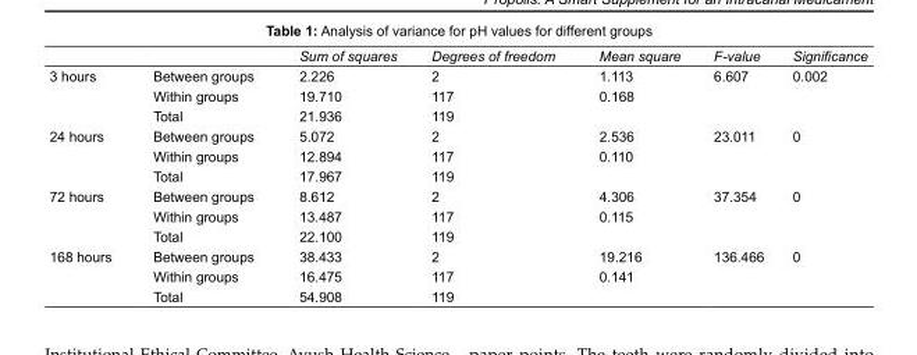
<table><thead><tr><td></td><td></td><td>Sum of squares</td><td>Degrees of freedom</td><td>Mean square</td><td>F-value</td><td>Significance</td></tr></thead><tbody><tr><td rowspan="3">3 hours</td><td>Between groups</td><td>2.226</td><td>2</td><td>1.113</td><td>6.607</td><td>0.002</td></tr><tr><td>Within groups</td><td>19.710</td><td>117</td><td>0.168</td><td></td><td></td></tr><tr><td>Total</td><td>21.936</td><td>119</td><td></td><td></td><td></td></tr><tr><td rowspan="3">24 hours</td><td>Between groups</td><td>5.072</td><td>2</td><td>2.536</td><td>23.011</td><td>0</td></tr><tr><td>Within groups</td><td>12.894</td><td>117</td><td>0.110</td><td></td><td></td></tr><tr><td>Total</td><td>17.967</td><td>119</td><td></td><td></td><td></td></tr><tr><td rowspan="3">72 hours</td><td>Between groups</td><td>8.612</td><td>2</td><td>4.306</td><td>37.354</td><td>0</td></tr><tr><td>Within groups</td><td>13.487</td><td>117</td><td>0.115</td><td></td><td></td></tr><tr><td>Total</td><td>22.100</td><td>119</td><td></td><td></td><td></td></tr><tr><td rowspan="3">168 hours</td><td>Between groups</td><td>38.433</td><td>2</td><td>19.216</td><td>136.466</td><td>0</td></tr><tr><td>Within groups</td><td>16.475</td><td>117</td><td>0.141</td><td></td><td></td></tr><tr><td>Total</td><td>54.908</td><td>119</td><td></td><td></td><td></td></tr></tbody></table>